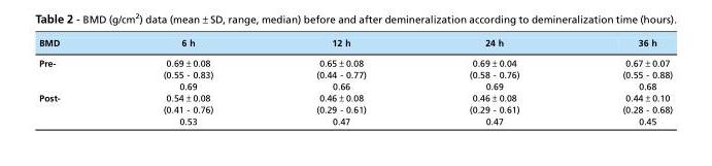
<table><thead><tr><td>BMD</td><td>6 h</td><td>12 h</td><td>24 h</td><td>36 h</td></tr></thead><tbody><tr><td rowspan="3">Pre-</td><td>0.69±0.08</td><td>0.65±0.08</td><td>0.69±0.04</td><td>0.67±0.07</td></tr><tr><td>(0.55 - 0.83)</td><td>(0.44 - 0.77)</td><td>(0.58 - 0.76)</td><td>(0.55 - 0.88)</td></tr><tr><td>0.69</td><td>0.66</td><td>0.69</td><td>0.68</td></tr><tr><td rowspan="3">Post-</td><td>0.54±0.08</td><td>0.46±0.08</td><td>0.46±0.08</td><td>0.44±0.10</td></tr><tr><td>(0.41 - 0.76)</td><td>(0.29 - 0.61)</td><td>(0.29 - 0.61)</td><td>(0.28 - 0.68)</td></tr><tr><td>0.53</td><td>0.47</td><td>0.47</td><td>0.45</td></tr></tbody></table>